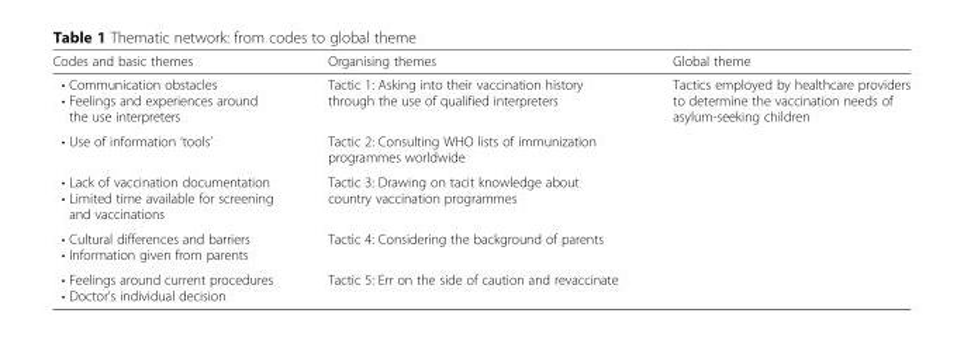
<table><thead><tr><td>Codes and basic themes</td><td>Organising themes</td><td>Global theme</td></tr></thead><tbody><tr><td>• Communication obstacles • Feelings and experiences around the use interpreters</td><td>Tactic 1: Asking into their vaccination history through the use of qualified interpreters</td><td rowspan="5">Tactics employed by healthcare providers to determine the vaccination needs of asylum-seeking children</td></tr><tr><td>• Use of information ‘tools’</td><td>Tactic 2: Consulting WHO lists of immunization programmes worldwide</td></tr><tr><td>• Lack of vaccination documentation • Limited time available for screening and vaccinations</td><td>Tactic 3: Drawing on tacit knowledge about country vaccination programmes</td></tr><tr><td>• Cultural differences and barriers • Information given from parents</td><td>Tactic 4: Considering the background of parents</td></tr><tr><td>• Feelings around current procedures • Doctor’s individual decision</td><td>Tactic 5: Err on the side of caution and revaccinate</td></tr></tbody></table>